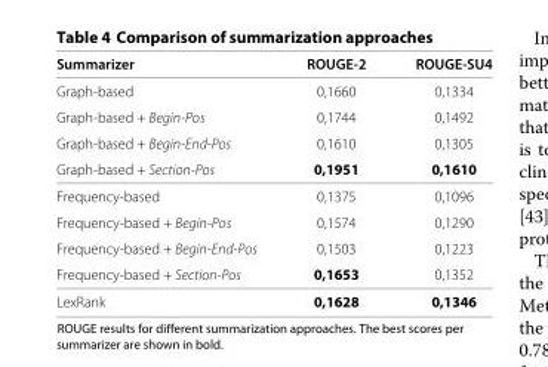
<table><thead><tr><td>Summarizer</td><td>ROUGE-2</td><td>ROUGE-SU4</td></tr></thead><tbody><tr><td>Graph-based</td><td>0,1660</td><td>0,1334</td></tr><tr><td>Graph-based + Begin-Pos</td><td>0,1744</td><td>0,1492</td></tr><tr><td>Graph-based + Begin-End-Pos</td><td>0,1610</td><td>0,1305</td></tr><tr><td>Graph-based + Section-Pos</td><td>0,1951</td><td>0,1610</td></tr><tr><td>Frequency-based</td><td>0,1375</td><td>0,1096</td></tr><tr><td>Frequency-based + Begin-Pos</td><td>0,1574</td><td>0,1290</td></tr><tr><td>Frequency-based + Begin-End-Pos</td><td>0,1503</td><td>0,1223</td></tr><tr><td>Frequency-based + Section-Pos</td><td>0,1653</td><td>0,1352</td></tr><tr><td>LexRank</td><td>0,1628</td><td>0,1346</td></tr></tbody></table>